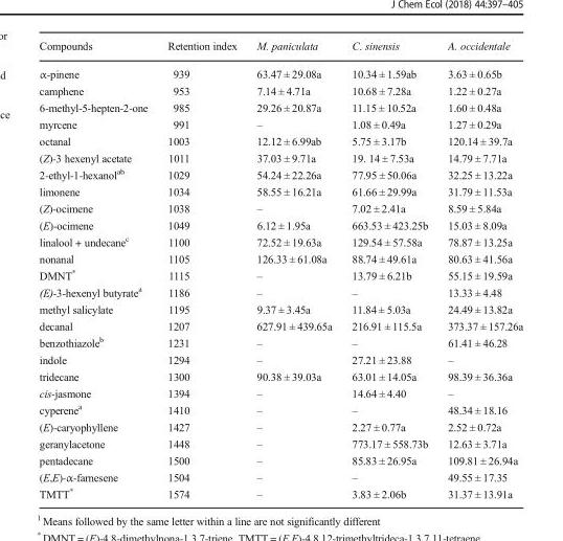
<table><thead><tr><td>Compounds</td><td>Retention index</td><td>M. paniculata</td><td>C. sinensis</td><td>A. occidentale</td></tr></thead><tbody><tr><td>α-pinene</td><td>939</td><td>63.47 ± 29.08a</td><td>10.34 ± 1.59ab</td><td>3.63 ± 0.65b</td></tr><tr><td>camphene</td><td>953</td><td>7.14 ± 4.71a</td><td>10.68 ± 7.28a</td><td>1.22 ± 0.27a</td></tr><tr><td>6-methyl-5-hepten-2-one</td><td>985</td><td>29.26 ± 20.87a</td><td>11.15 ± 10.52a</td><td>1.60 ± 0.48a</td></tr><tr><td>myrcene</td><td>991</td><td>–</td><td>1.08 ± 0.49a</td><td>1.27 ± 0.29a</td></tr><tr><td>octanal</td><td>1003</td><td>12.12 ± 6.99ab</td><td>5.75 ± 3.17b</td><td>120.14 ± 39.7a</td></tr><tr><td>(Z)-3 hexenyl acetate</td><td>1011</td><td>37.03 ± 9.71a</td><td>19. 14 ± 7.53a</td><td>14.79 ± 7.71a</td></tr><tr><td>2-ethyl-1-hexanol<sup>ab</sup></td><td>1029</td><td>54.24 ± 22.26a</td><td>77.95 ± 50.06a</td><td>32.25 ± 13.22a</td></tr><tr><td>limonene</td><td>1034</td><td>58.55 ± 16.21a</td><td>61.66 ± 29.99a</td><td>31.79 ± 11.53a</td></tr><tr><td>(Z)-ocimene</td><td>1038</td><td>–</td><td>7.02 ± 2.41a</td><td>8.59 ± 5.84a</td></tr><tr><td>(E)-ocimene</td><td>1049</td><td>6.12 ± 1.95a</td><td>663.53 ± 423.25b</td><td>15.03 ± 8.09a</td></tr><tr><td>linalool + undecane<sup>c</sup></td><td>1100</td><td>72.52 ± 19.63a</td><td>129.54 ± 57.58a</td><td>78.87 ± 13.25a</td></tr><tr><td>nonanal</td><td>1105</td><td>126.33 ± 61.08a</td><td>88.74 ± 49.61a</td><td>80.63 ± 41.56a</td></tr><tr><td>DMNT*</td><td>1115</td><td>–</td><td>13.79 ± 6.21b</td><td>55.15 ± 19.59a</td></tr><tr><td>(E)-3-hexenyl butyrate<sup>a</sup></td><td>1186</td><td>–</td><td>–</td><td>13.33 ± 4.48</td></tr><tr><td>methyl salicylate</td><td>1195</td><td>9.37 ± 3.45a</td><td>11.84 ± 5.03a</td><td>24.49 ± 13.82a</td></tr><tr><td>decanal</td><td>1207</td><td>627.91 ± 439.65a</td><td>216.91 ± 115.5a</td><td>373.37 ± 157.26a</td></tr><tr><td>benzothiazole<sup>b</sup></td><td>1231</td><td>–</td><td>–</td><td>61.41 ± 46.28</td></tr><tr><td>indole</td><td>1294</td><td>–</td><td>27.21 ± 23.88</td><td>–</td></tr><tr><td>tridecane</td><td>1300</td><td>90.38 ± 39.03a</td><td>63.01 ± 14.05a</td><td>98.39 ± 36.36a</td></tr><tr><td>cis-jasmone</td><td>1394</td><td>–</td><td>14.64 ± 4.40</td><td>–</td></tr><tr><td>cyperene<sup>a</sup></td><td>1410</td><td>–</td><td>–</td><td>48.34 ± 18.16</td></tr><tr><td>(E)-caryophyllene</td><td>1427</td><td>–</td><td>2.27 ± 0.77a</td><td>2.52 ± 0.72a</td></tr><tr><td>geranylacetone</td><td>1448</td><td>–</td><td>773.17 ± 558.73b</td><td>12.63 ± 3.71a</td></tr><tr><td>pentadecane</td><td>1500</td><td>–</td><td>85.83 ± 26.95a</td><td>109.81 ± 26.94a</td></tr><tr><td>(E,E)-α-farnesene</td><td>1504</td><td>–</td><td>–</td><td>49.55 ± 17.35</td></tr><tr><td>TMTT*</td><td>1574</td><td>–</td><td>3.83 ± 2.06b</td><td>31.37 ± 13.91a</td></tr></tbody></table>